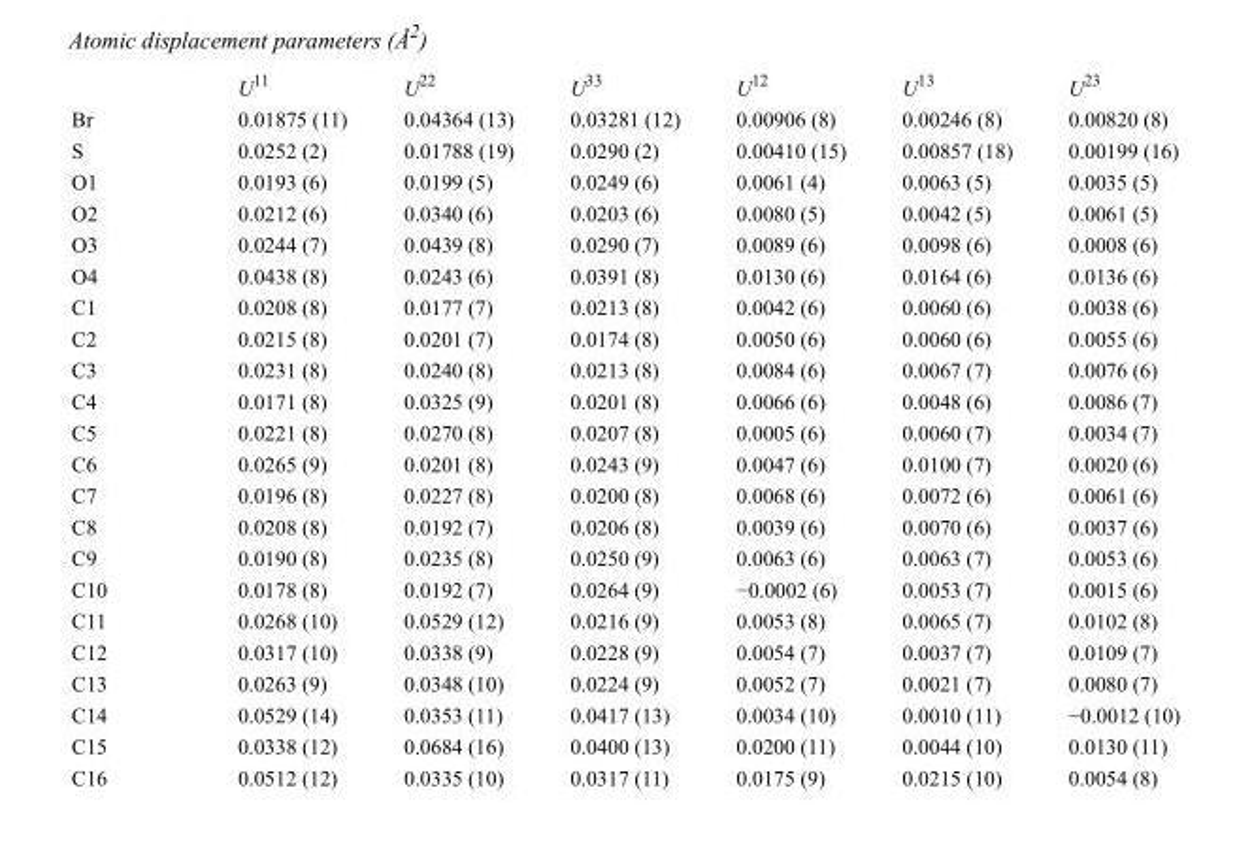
<table><thead><tr><td></td><td>U<sup>11</sup></td><td>U<sup>22</sup></td><td>U<sup>33</sup></td><td>U<sup>12</sup></td><td>U<sup>13</sup></td><td>U<sup>23</sup></td></tr></thead><tbody><tr><td>Br</td><td>0.01875 (11)</td><td>0.04364 (13)</td><td>0.03281 (12)</td><td>0.00906 (8)</td><td>0.00246 (8)</td><td>0.00820 (8)</td></tr><tr><td>S</td><td>0.0252 (2)</td><td>0.01788 (19)</td><td>0.0290 (2)</td><td>0.00410 (15)</td><td>0.00857 (18)</td><td>0.00199 (16)</td></tr><tr><td>O1</td><td>0.0193 (6)</td><td>0.0199 (5)</td><td>0.0249 (6)</td><td>0.0061 (4)</td><td>0.0063 (5)</td><td>0.0035 (5)</td></tr><tr><td>O2</td><td>0.0212 (6)</td><td>0.0340 (6)</td><td>0.0203 (6)</td><td>0.0080 (5)</td><td>0.0042 (5)</td><td>0.0061 (5)</td></tr><tr><td>O3</td><td>0.0244 (7)</td><td>0.0439 (8)</td><td>0.0290 (7)</td><td>0.0089 (6)</td><td>0.0098 (6)</td><td>0.0008 (6)</td></tr><tr><td>O4</td><td>0.0438 (8)</td><td>0.0243 (6)</td><td>0.0391 (8)</td><td>0.0130 (6)</td><td>0.0164 (6)</td><td>0.0136 (6)</td></tr><tr><td>C1</td><td>0.0208 (8)</td><td>0.0177 (7)</td><td>0.0213 (8)</td><td>0.0042 (6)</td><td>0.0060 (6)</td><td>0.0038 (6)</td></tr><tr><td>C2</td><td>0.0215 (8)</td><td>0.0201 (7)</td><td>0.0174 (8)</td><td>0.0050 (6)</td><td>0.0060 (6)</td><td>0.0055 (6)</td></tr><tr><td>C3</td><td>0.0231 (8)</td><td>0.0240 (8)</td><td>0.0213 (8)</td><td>0.0084 (6)</td><td>0.0067 (7)</td><td>0.0076 (6)</td></tr><tr><td>C4</td><td>0.0171 (8)</td><td>0.0325 (9)</td><td>0.0201 (8)</td><td>0.0066 (6)</td><td>0.0048 (6)</td><td>0.0086 (7)</td></tr><tr><td>C5</td><td>0.0221 (8)</td><td>0.0270 (8)</td><td>0.0207 (8)</td><td>0.0005 (6)</td><td>0.0060 (7)</td><td>0.0034 (7)</td></tr><tr><td>C6</td><td>0.0265 (9)</td><td>0.0201 (8)</td><td>0.0243 (9)</td><td>0.0047 (6)</td><td>0.0100 (7)</td><td>0.0020 (6)</td></tr><tr><td>C7</td><td>0.0196 (8)</td><td>0.0227 (8)</td><td>0.0200 (8)</td><td>0.0068 (6)</td><td>0.0072 (6)</td><td>0.0061 (6)</td></tr><tr><td>C8</td><td>0.0208 (8)</td><td>0.0192 (7)</td><td>0.0206 (8)</td><td>0.0039 (6)</td><td>0.0070 (6)</td><td>0.0037 (6)</td></tr><tr><td>C9</td><td>0.0190 (8)</td><td>0.0235 (8)</td><td>0.0250 (9)</td><td>0.0063 (6)</td><td>0.0063 (7)</td><td>0.0053 (6)</td></tr><tr><td>C10</td><td>0.0178 (8)</td><td>0.0192 (7)</td><td>0.0264 (9)</td><td>−0.0002 (6)</td><td>0.0053 (7)</td><td>0.0015 (6)</td></tr><tr><td>C11</td><td>0.0268 (10)</td><td>0.0529 (12)</td><td>0.0216 (9)</td><td>0.0053 (8)</td><td>0.0065 (7)</td><td>0.0102 (8)</td></tr><tr><td>C12</td><td>0.0317 (10)</td><td>0.0338 (9)</td><td>0.0228 (9)</td><td>0.0054 (7)</td><td>0.0037 (7)</td><td>0.0109 (7)</td></tr><tr><td>C13</td><td>0.0263 (9)</td><td>0.0348 (10)</td><td>0.0224 (9)</td><td>0.0052 (7)</td><td>0.0021 (7)</td><td>0.0080 (7)</td></tr><tr><td>C14</td><td>0.0529 (14)</td><td>0.0353 (11)</td><td>0.0417 (13)</td><td>0.0034 (10)</td><td>0.0010 (11)</td><td>−0.0012 (10)</td></tr><tr><td>C15</td><td>0.0338 (12)</td><td>0.0684 (16)</td><td>0.0400 (13)</td><td>0.0200 (11)</td><td>0.0044 (10)</td><td>0.0130 (11)</td></tr><tr><td>C16</td><td>0.0512 (12)</td><td>0.0335 (10)</td><td>0.0317 (11)</td><td>0.0175 (9)</td><td>0.0215 (10)</td><td>0.0054 (8)</td></tr></tbody></table>